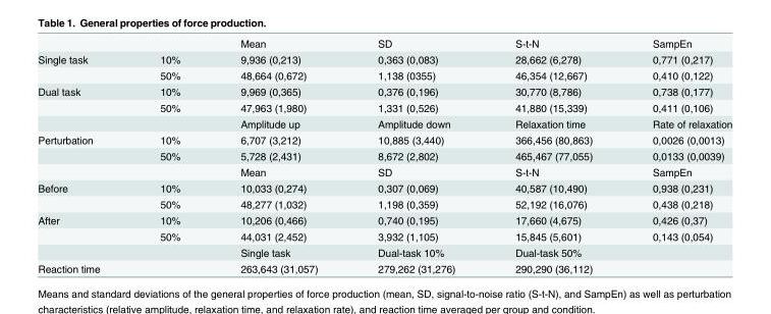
<table><thead><tr><td></td><td></td><td>Mean</td><td>SD</td><td>S-t-N</td><td>SampEn</td></tr></thead><tbody><tr><td rowspan="2">Single task</td><td>10%</td><td>9,936 (0,213)</td><td>0,363 (0,083)</td><td>28,662 (6,278)</td><td>0,771 (0,217)</td></tr><tr><td>50%</td><td>48,664 (0,672)</td><td>1,138 (0355)</td><td>46,354 (12,667)</td><td>0,410 (0,122)</td></tr><tr><td rowspan="3">Dual task</td><td>10%</td><td>9,969 (0,365)</td><td>0,376 (0,196)</td><td>30,770 (8,786)</td><td>0,738 (0,177)</td></tr><tr><td>50%</td><td>47,963 (1,980)</td><td>1,331 (0,526)</td><td>41,880 (15,339)</td><td>0,411 (0,106)</td></tr><tr><td></td><td>Amplitude up</td><td>Amplitude down</td><td>Relaxation time</td><td>Rate of relaxation</td></tr><tr><td rowspan="3">Perturbation</td><td>10%</td><td>6,707 (3,212)</td><td>10,885 (3,440)</td><td>366,456 (80,863)</td><td>0,0026 (0,0013)</td></tr><tr><td>50%</td><td>5,728 (2,431)</td><td>8,672 (2,802)</td><td>465,467 (77,055)</td><td>0,0133 (0,0039)</td></tr><tr><td></td><td>Mean</td><td>SD</td><td>S-t-N</td><td>SampEn</td></tr><tr><td rowspan="2">Before</td><td>10%</td><td>10,033 (0,274)</td><td>0,307 (0,069)</td><td>40,587 (10,490)</td><td>0,938 (0,231)</td></tr><tr><td>50%</td><td>48,277 (1,032)</td><td>1,198 (0,359)</td><td>52,192 (16,076)</td><td>0,438 (0,218)</td></tr><tr><td rowspan="3">After</td><td>10%</td><td>10,206 (0,466)</td><td>0,740 (0,195)</td><td>17,660 (4,675)</td><td>0,426 (0,37)</td></tr><tr><td>50%</td><td>44,031 (2,452)</td><td>3,932 (1,105)</td><td>15,845 (5,601)</td><td>0,143 (0,054)</td></tr><tr><td></td><td>Single task</td><td>Dual-task 10%</td><td>Dual-task 50%</td><td></td></tr><tr><td>Reaction time</td><td></td><td>263,643 (31,057)</td><td>279,262 (31,276)</td><td>290,290 (36,112)</td><td></td></tr></tbody></table>